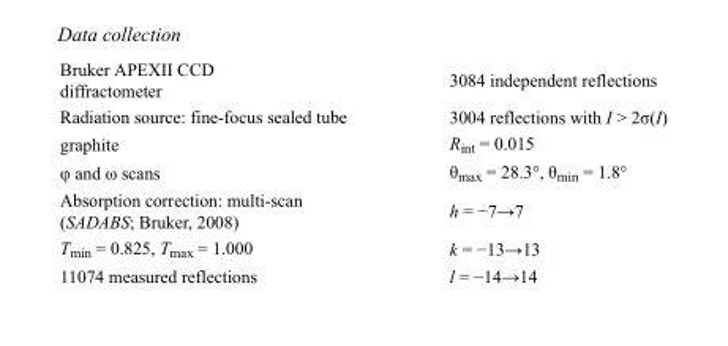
<table><tbody><tr><td>Bruker APEXII CCD diffractometer</td><td>3084 independent reflections</td></tr><tr><td>Radiation source: fine-focus sealed tube</td><td>3004 reflections with I &gt; 2σ(I)</td></tr><tr><td>graphite</td><td>R<sub>int</sub> = 0.015</td></tr><tr><td>φ and ω scans</td><td>θ<sub>max</sub> = 28.3°, θ<sub>min</sub> = 1.8°</td></tr><tr><td>Absorption correction: multi-scan (SADABS; Bruker, 2008)</td><td>h = −7→7</td></tr><tr><td>T<sub>min</sub> = 0.825, T<sub>max</sub> = 1.000</td><td>k = −13→13</td></tr><tr><td>11074 measured reflections</td><td>l = −14→14</td></tr></tbody></table>